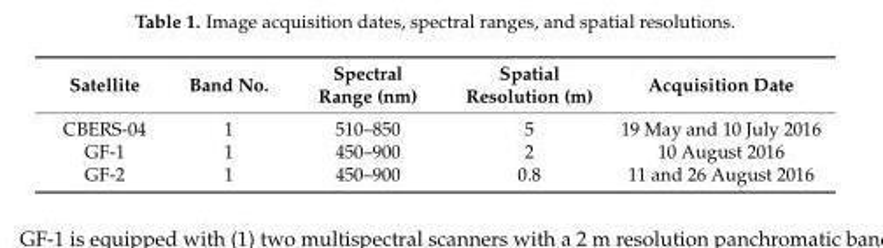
<table><thead><tr><td>Satellite</td><td>Band No.</td><td>Spectral Range (nm)</td><td>Spatial Resolution (m)</td><td>Acquisition Date</td></tr></thead><tbody><tr><td>CBERS-04</td><td>1</td><td>510–850</td><td>5</td><td>19 May and 10 July 2016</td></tr><tr><td>GF-1</td><td>1</td><td>450–900</td><td>2</td><td>10 August 2016</td></tr><tr><td>GF-2</td><td>1</td><td>450–900</td><td>0.8</td><td>11 and 26 August 2016</td></tr></tbody></table>